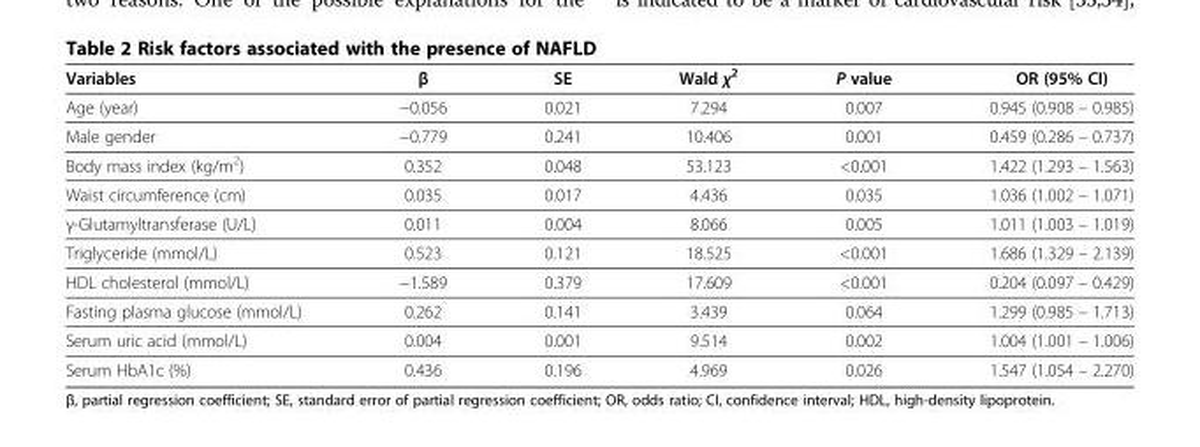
<table><thead><tr><td>Variables</td><td>β</td><td>SE</td><td>Wald χ<sup>2</sup></td><td>P value</td><td>OR (95% CI)</td></tr></thead><tbody><tr><td>Age (year)</td><td>−0.056</td><td>0.021</td><td>7.294</td><td>0.007</td><td>0.945 (0.908 – 0.985)</td></tr><tr><td>Male gender</td><td>−0.779</td><td>0.241</td><td>10.406</td><td>0.001</td><td>0.459 (0.286 – 0.737)</td></tr><tr><td>Body mass index (kg/m<sup>2</sup>)</td><td>0.352</td><td>0.048</td><td>53.123</td><td>&lt;0.001</td><td>1.422 (1.293 – 1.563)</td></tr><tr><td>Waist circumference (cm)</td><td>0.035</td><td>0.017</td><td>4.436</td><td>0.035</td><td>1.036 (1.002 – 1.071)</td></tr><tr><td>γ-Glutamyltransferase (U/L)</td><td>0.011</td><td>0.004</td><td>8.066</td><td>0.005</td><td>1.011 (1.003 – 1.019)</td></tr><tr><td>Triglyceride (mmol/L)</td><td>0.523</td><td>0.121</td><td>18.525</td><td>&lt;0.001</td><td>1.686 (1.329 – 2.139)</td></tr><tr><td>HDL cholesterol (mmol/L)</td><td>−1.589</td><td>0.379</td><td>17.609</td><td>&lt;0.001</td><td>0.204 (0.097 – 0.429)</td></tr><tr><td>Fasting plasma glucose (mmol/L)</td><td>0.262</td><td>0.141</td><td>3.439</td><td>0.064</td><td>1.299 (0.985 – 1.713)</td></tr><tr><td>Serum uric acid (mmol/L)</td><td>0.004</td><td>0.001</td><td>9.514</td><td>0.002</td><td>1.004 (1.001 – 1.006)</td></tr><tr><td>Serum HbA1c (%)</td><td>0.436</td><td>0.196</td><td>4.969</td><td>0.026</td><td>1.547 (1.054 – 2.270)</td></tr></tbody></table>